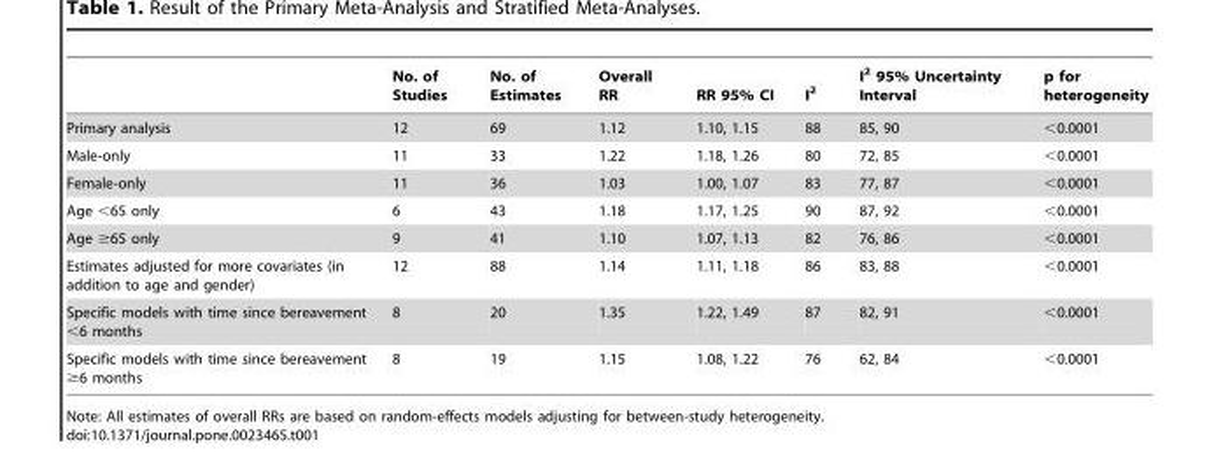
<table><thead><tr><td></td><td>No. of Studies</td><td>No. of Estimates</td><td>Overall RR</td><td>RR 95% CI</td><td>I<sup>2</sup></td><td>I<sup>2</sup> 95% Uncertainty Interval</td><td>p for heterogeneity</td></tr></thead><tbody><tr><td>Primary analysis</td><td>12</td><td>69</td><td>1.12</td><td>1.10, 1.15</td><td>88</td><td>85, 90</td><td>&lt;0.0001</td></tr><tr><td>Male-only</td><td>11</td><td>33</td><td>1.22</td><td>1.18, 1.26</td><td>80</td><td>72, 85</td><td>&lt;0.0001</td></tr><tr><td>Female-only</td><td>11</td><td>36</td><td>1.03</td><td>1.00, 1.07</td><td>83</td><td>77, 87</td><td>&lt;0.0001</td></tr><tr><td>Age &lt;65 only</td><td>6</td><td>43</td><td>1.18</td><td>1.17, 1.25</td><td>90</td><td>87, 92</td><td>&lt;0.0001</td></tr><tr><td>Age ≥65 only</td><td>9</td><td>41</td><td>1.10</td><td>1.07, 1.13</td><td>82</td><td>76, 86</td><td>&lt;0.0001</td></tr><tr><td>Estimates adjusted for more covariates (in addition to age and gender)</td><td>12</td><td>88</td><td>1.14</td><td>1.11, 1.18</td><td>86</td><td>83, 88</td><td>&lt;0.0001</td></tr><tr><td>Specific models with time since bereavement &lt;6 months</td><td>8</td><td>20</td><td>1.35</td><td>1.22, 1.49</td><td>87</td><td>82, 91</td><td>&lt;0.0001</td></tr><tr><td>Specific models with time since bereavement ≥6 months</td><td>8</td><td>19</td><td>1.15</td><td>1.08, 1.22</td><td>76</td><td>62, 84</td><td>&lt;0.0001</td></tr></tbody></table>